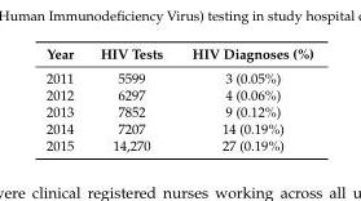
<table><thead><tr><td>Year</td><td>HIV Tests</td><td>HIV Diagnoses (%)</td></tr></thead><tbody><tr><td>2011</td><td>5599</td><td>3 (0.05%)</td></tr><tr><td>2012</td><td>6297</td><td>4 (0.06%)</td></tr><tr><td>2013</td><td>7852</td><td>9 (0.12%)</td></tr><tr><td>2014</td><td>7207</td><td>14 (0.19%)</td></tr><tr><td>2015</td><td>14,270</td><td>27 (0.19%)</td></tr></tbody></table>